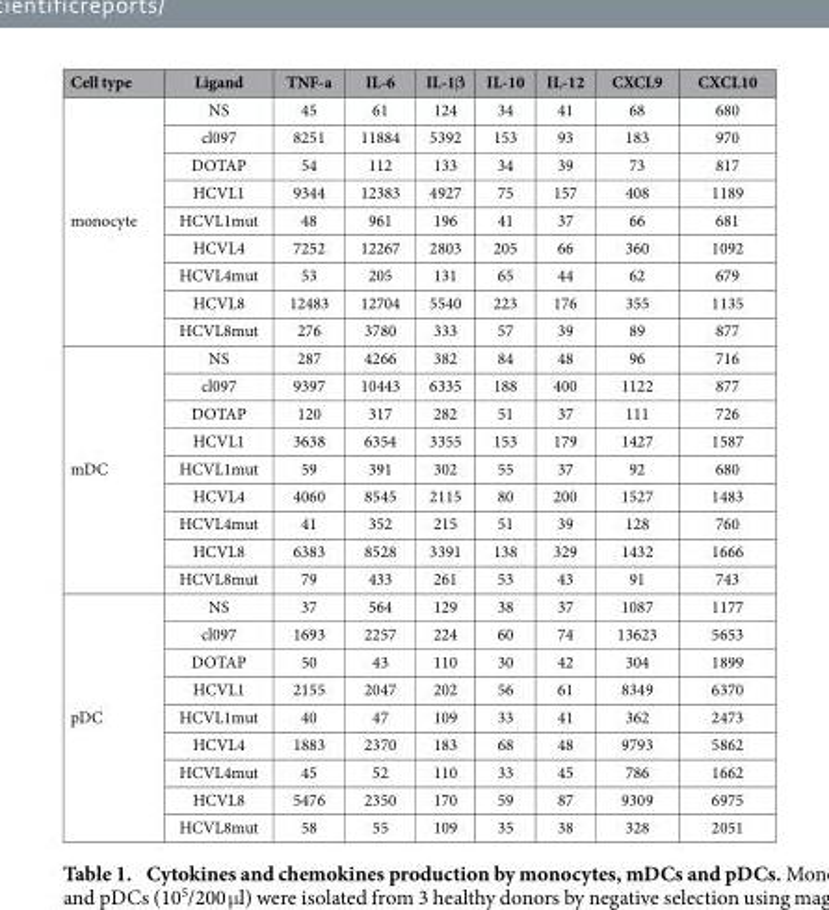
<table><thead><tr><td>Cell type</td><td>Ligand</td><td>TNF-a</td><td>IL-6</td><td>IL-1β</td><td>IL-10</td><td>IL-12</td><td>CXCL9</td><td>CXCL10</td></tr></thead><tbody><tr><td rowspan="9">monocyte</td><td>NS</td><td>45</td><td>61</td><td>124</td><td>34</td><td>41</td><td>68</td><td>680</td></tr><tr><td>cl097</td><td>8251</td><td>11884</td><td>5392</td><td>153</td><td>93</td><td>183</td><td>970</td></tr><tr><td>DOTAP</td><td>54</td><td>112</td><td>133</td><td>34</td><td>39</td><td>73</td><td>817</td></tr><tr><td>HCVL1</td><td>9344</td><td>12383</td><td>4927</td><td>75</td><td>157</td><td>408</td><td>1189</td></tr><tr><td>HCVL1mut</td><td>48</td><td>961</td><td>196</td><td>41</td><td>37</td><td>66</td><td>681</td></tr><tr><td>HCVL4</td><td>7252</td><td>12267</td><td>2803</td><td>205</td><td>66</td><td>360</td><td>1092</td></tr><tr><td>HCVL4mut</td><td>53</td><td>205</td><td>131</td><td>65</td><td>44</td><td>62</td><td>679</td></tr><tr><td>HCVL8</td><td>12483</td><td>12704</td><td>5540</td><td>223</td><td>176</td><td>355</td><td>1135</td></tr><tr><td>HCVL8mut</td><td>276</td><td>3780</td><td>333</td><td>57</td><td>39</td><td>89</td><td>877</td></tr><tr><td rowspan="9">mDC</td><td>NS</td><td>287</td><td>4266</td><td>382</td><td>84</td><td>48</td><td>96</td><td>716</td></tr><tr><td>cl097</td><td>9397</td><td>10443</td><td>6335</td><td>188</td><td>400</td><td>1122</td><td>877</td></tr><tr><td>DOTAP</td><td>120</td><td>317</td><td>282</td><td>51</td><td>37</td><td>111</td><td>726</td></tr><tr><td>HCVL1</td><td>3638</td><td>6354</td><td>3355</td><td>153</td><td>179</td><td>1427</td><td>1587</td></tr><tr><td>HCVL1mut</td><td>59</td><td>391</td><td>302</td><td>55</td><td>37</td><td>92</td><td>680</td></tr><tr><td>HCVL4</td><td>4060</td><td>8545</td><td>2115</td><td>80</td><td>200</td><td>1527</td><td>1483</td></tr><tr><td>HCVL4mut</td><td>41</td><td>352</td><td>215</td><td>51</td><td>39</td><td>128</td><td>760</td></tr><tr><td>HCVL8</td><td>6383</td><td>8528</td><td>3391</td><td>138</td><td>329</td><td>1432</td><td>1666</td></tr><tr><td>HCVL8mut</td><td>79</td><td>433</td><td>261</td><td>53</td><td>43</td><td>91</td><td>743</td></tr><tr><td rowspan="9">pDC</td><td>NS</td><td>37</td><td>564</td><td>129</td><td>38</td><td>37</td><td>1087</td><td>1177</td></tr><tr><td>cl097</td><td>1693</td><td>2257</td><td>224</td><td>60</td><td>74</td><td>13623</td><td>5653</td></tr><tr><td>DOTAP</td><td>50</td><td>43</td><td>110</td><td>30</td><td>42</td><td>304</td><td>1899</td></tr><tr><td>HCVL1</td><td>2155</td><td>2047</td><td>202</td><td>56</td><td>61</td><td>8349</td><td>6370</td></tr><tr><td>HCVL1mut</td><td>40</td><td>47</td><td>109</td><td>33</td><td>41</td><td>362</td><td>2473</td></tr><tr><td>HCVL4</td><td>1883</td><td>2370</td><td>183</td><td>68</td><td>48</td><td>9793</td><td>5862</td></tr><tr><td>HCVL4mut</td><td>45</td><td>52</td><td>110</td><td>33</td><td>45</td><td>786</td><td>1662</td></tr><tr><td>HCVL8</td><td>5476</td><td>2350</td><td>170</td><td>59</td><td>87</td><td>9309</td><td>6975</td></tr><tr><td>HCVL8mut</td><td>58</td><td>55</td><td>109</td><td>35</td><td>38</td><td>328</td><td>2051</td></tr></tbody></table>